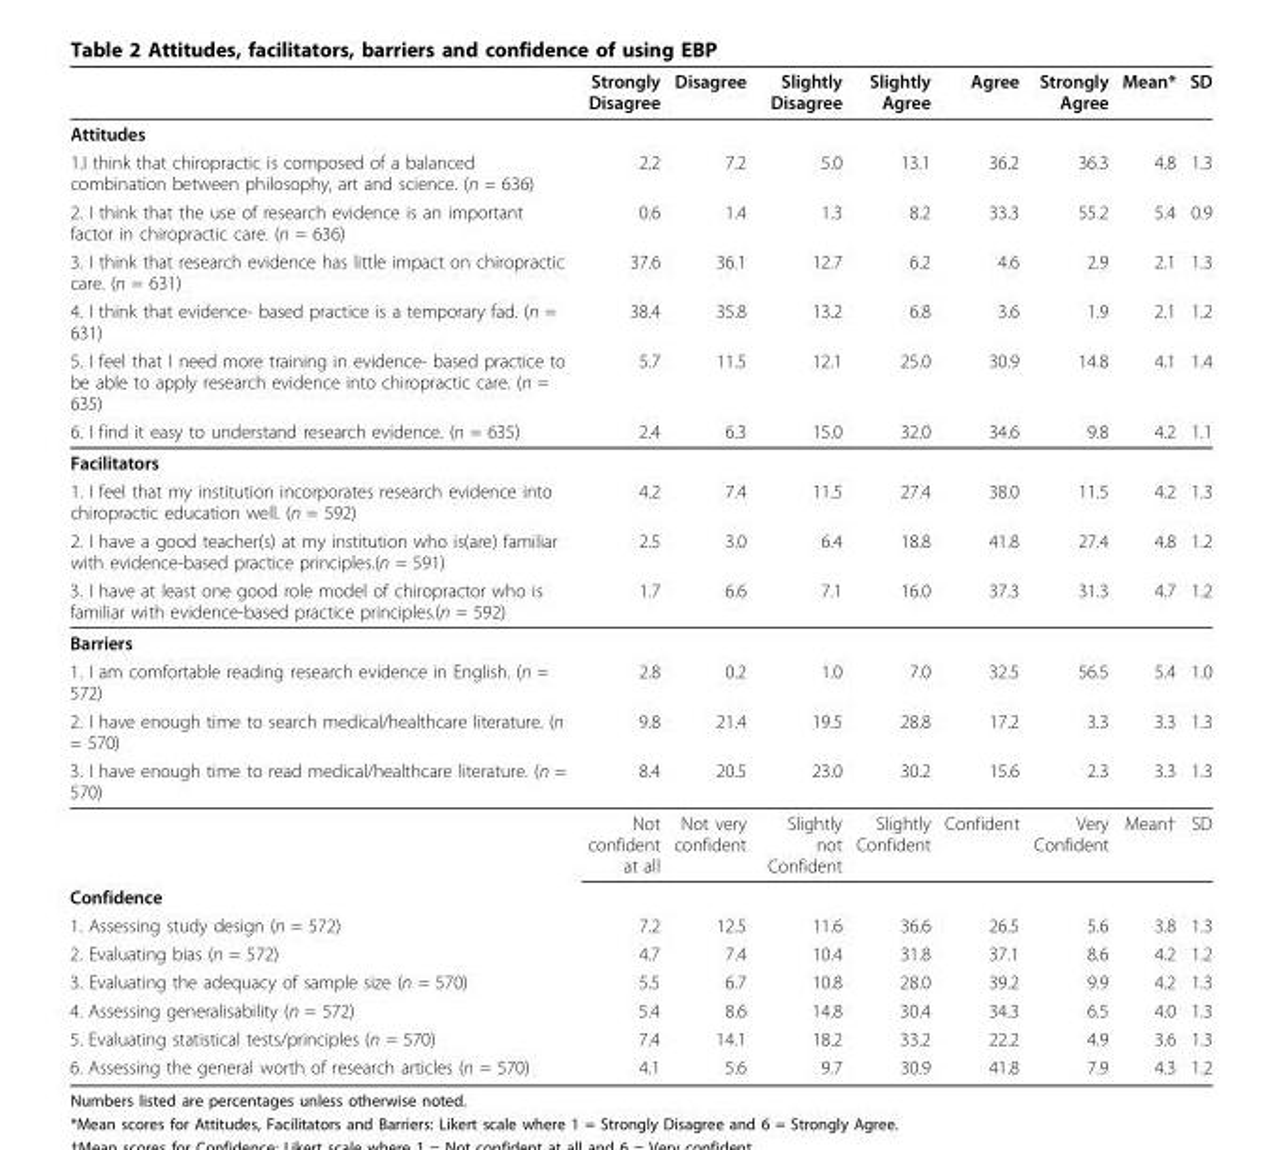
<table><thead><tr><td></td><td>Strongly Disagree</td><td>Disagree</td><td>Slightly Disagree</td><td>Slightly Agree</td><td>Agree</td><td>Strongly Agree</td><td>Mean*</td><td>SD</td></tr></thead><tbody><tr><td colspan="9">Attitudes</td></tr><tr><td>1.I think that chiropractic is composed of a balanced combination between philosophy, art and science. (n = 636)</td><td>2.2</td><td>7.2</td><td>5.0</td><td>13.1</td><td>36.2</td><td>36.3</td><td>4.8</td><td>1.3</td></tr><tr><td>2. I think that the use of research evidence is an important factor in chiropractic care. (n = 636)</td><td>0.6</td><td>1.4</td><td>1.3</td><td>8.2</td><td>33.3</td><td>55.2</td><td>5.4</td><td>0.9</td></tr><tr><td>3. I think that research evidence has little impact on chiropractic care. (n = 631)</td><td>37.6</td><td>36.1</td><td>12.7</td><td>6.2</td><td>4.6</td><td>2.9</td><td>2.1</td><td>1.3</td></tr><tr><td>4. I think that evidence- based practice is a temporary fad. (n = 631)</td><td>38.4</td><td>35.8</td><td>13.2</td><td>6.8</td><td>3.6</td><td>1.9</td><td>2.1</td><td>1.2</td></tr><tr><td>5. I feel that I need more training in evidence- based practice to be able to apply research evidence into chiropractic care. (n = 635)</td><td>5.7</td><td>11.5</td><td>12.1</td><td>25.0</td><td>30.9</td><td>14.8</td><td>4.1</td><td>1.4</td></tr><tr><td>6. I find it easy to understand research evidence. (n = 635)</td><td>2.4</td><td>6.3</td><td>15.0</td><td>32.0</td><td>34.6</td><td>9.8</td><td>4.2</td><td>1.1</td></tr><tr><td colspan="9">Facilitators</td></tr><tr><td>1. I feel that my institution incorporates research evidence into chiropractic education well. (n = 592)</td><td>4.2</td><td>7.4</td><td>11.5</td><td>27.4</td><td>38.0</td><td>11.5</td><td>4.2</td><td>1.3</td></tr><tr><td>2. I have a good teacher(s) at my institution who is(are) familiar with evidence-based practice principles.(n = 591)</td><td>2.5</td><td>3.0</td><td>6.4</td><td>18.8</td><td>41.8</td><td>27.4</td><td>4.8</td><td>1.2</td></tr><tr><td>3. I have at least one good role model of chiropractor who is familiar with evidence-based practice principles.(n = 592)</td><td>1.7</td><td>6.6</td><td>7.1</td><td>16.0</td><td>37.3</td><td>31.3</td><td>4.7</td><td>1.2</td></tr><tr><td colspan="9">Barriers</td></tr><tr><td>1. I am comfortable reading research evidence in English. (n = 572)</td><td>2.8</td><td>0.2</td><td>1.0</td><td>7.0</td><td>32.5</td><td>56.5</td><td>5.4</td><td>1.0</td></tr><tr><td>2. I have enough time to search medical/healthcare literature. (n = 570)</td><td>9.8</td><td>21.4</td><td>19.5</td><td>28.8</td><td>17.2</td><td>3.3</td><td>3.3</td><td>1.3</td></tr><tr><td rowspan="2">3. I have enough time to read medical/healthcare literature. (n = 570)</td><td>8.4</td><td>20.5</td><td>23.0</td><td>30.2</td><td>15.6</td><td>2.3</td><td>3.3</td><td>1.3</td></tr><tr><td>Not confident at all</td><td>Not very confident</td><td>Slightly not Confident</td><td>Slightly Confident</td><td>Confident</td><td>Very Confident</td><td>Mean†</td><td>SD</td></tr><tr><td colspan="9">Confidence</td></tr><tr><td>1. Assessing study design (n = 572)</td><td>7.2</td><td>12.5</td><td>11.6</td><td>36.6</td><td>26.5</td><td>5.6</td><td>3.8</td><td>1.3</td></tr><tr><td>2. Evaluating bias (n = 572)</td><td>4.7</td><td>7.4</td><td>10.4</td><td>31.8</td><td>37.1</td><td>8.6</td><td>4.2</td><td>1.2</td></tr><tr><td>3. Evaluating the adequacy of sample size (n = 570)</td><td>5.5</td><td>6.7</td><td>10.8</td><td>28.0</td><td>39.2</td><td>9.9</td><td>4.2</td><td>1.3</td></tr><tr><td>4. Assessing generalisability (n = 572)</td><td>5.4</td><td>8.6</td><td>14.8</td><td>30.4</td><td>34.3</td><td>6.5</td><td>4.0</td><td>1.3</td></tr><tr><td>5. Evaluating statistical tests/principles (n = 570)</td><td>7.4</td><td>14.1</td><td>18.2</td><td>33.2</td><td>22.2</td><td>4.9</td><td>3.6</td><td>1.3</td></tr><tr><td>6. Assessing the general worth of research articles (n = 570)</td><td>4.1</td><td>5.6</td><td>9.7</td><td>30.9</td><td>41.8</td><td>7.9</td><td>4.3</td><td>1.2</td></tr></tbody></table>